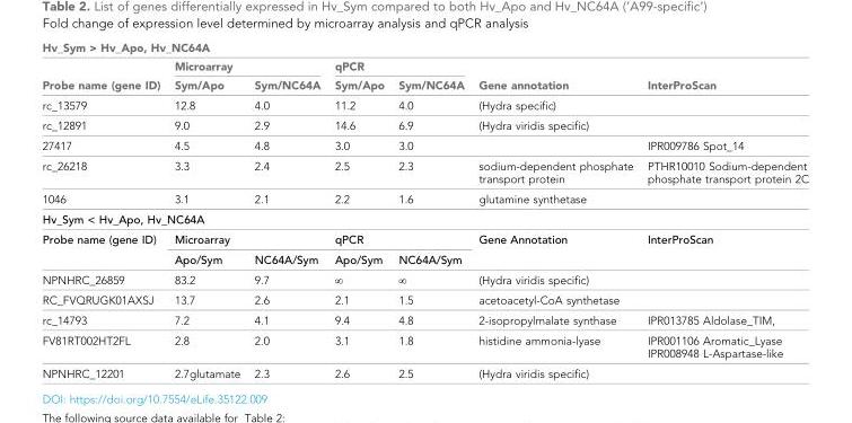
<table><thead><tr><td colspan="7">Hv_Sym &gt; Hv_Apo, Hv_NC64A</td></tr><tr><td rowspan="2">Probe name (gene ID)</td><td colspan="2">Microarray</td><td colspan="2">qPCR</td><td rowspan="2">Gene annotation</td><td rowspan="2">InterProScan</td></tr><tr><td>Sym/Apo</td><td>Sym/NC64A</td><td>Sym/Apo</td><td>Sym/NC64A</td></tr></thead><tbody><tr><td>rc_13579</td><td>12.8</td><td>4.0</td><td>11.2</td><td>4.0</td><td>(Hydra specific)</td><td></td></tr><tr><td>rc_12891</td><td>9.0</td><td>2.9</td><td>14.6</td><td>6.9</td><td>(Hydra viridis specific)</td><td></td></tr><tr><td>27417</td><td>4.5</td><td>4.8</td><td>3.0</td><td>3.0</td><td></td><td>IPR009786 Spot_14</td></tr><tr><td>rc_26218</td><td>3.3</td><td>2.4</td><td>2.5</td><td>2.3</td><td>sodium-dependent phosphate transport protein</td><td>PTHR10010 Sodium-dependent phosphate transport protein 2C</td></tr><tr><td>1046</td><td>3.1</td><td>2.1</td><td>2.2</td><td>1.6</td><td>glutamine synthetase</td><td></td></tr><tr><td colspan="7">Hv_Sym &lt; Hv_Apo, Hv_NC64A</td></tr><tr><td rowspan="2">Probe name (gene ID)</td><td colspan="2">Microarray</td><td colspan="2">qPCR</td><td rowspan="2">Gene Annotation</td><td rowspan="2">InterProScan</td></tr><tr><td>Apo/Sym</td><td>NC64A/Sym</td><td>Apo/Sym</td><td>NC64A/Sym</td></tr><tr><td>NPNHRC_26859</td><td>83.2</td><td>9.7</td><td>∞</td><td>∞</td><td>(Hydra viridis specific)</td><td></td></tr><tr><td>RC_FVQRUGK01AXSJ</td><td>13.7</td><td>2.6</td><td>2.1</td><td>1.5</td><td>acetoacetyl-CoA synthetase</td><td></td></tr><tr><td>rc_14793</td><td>7.2</td><td>4.1</td><td>9.4</td><td>4.8</td><td>2-isopropylmalate synthase</td><td>IPR013785 Aldolase_TIM,</td></tr><tr><td>FV81RT002HT2FL</td><td>2.8</td><td>2.0</td><td>3.1</td><td>1.8</td><td>histidine ammonia-lyase</td><td>IPR001106 Aromatic_Lyase IPR008948 L-Aspartase-like</td></tr><tr><td>NPNHRC_12201</td><td>2.7glutamate</td><td>2.3</td><td>2.6</td><td>2.5</td><td>(Hydra viridis specific)</td><td></td></tr></tbody></table>